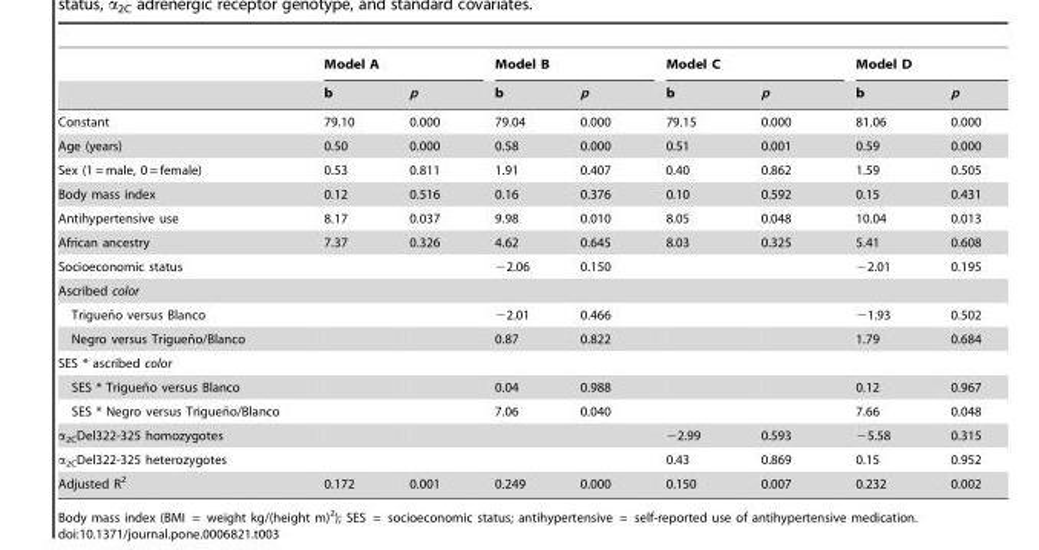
<table><thead><tr><td rowspan="2"></td><td colspan="2">Model A</td><td colspan="2">Model B</td><td colspan="2">Model C</td><td colspan="2">Model D</td></tr><tr><td>b</td><td>p</td><td>b</td><td>p</td><td>b</td><td>p</td><td>b</td><td>p</td></tr></thead><tbody><tr><td>Constant</td><td>79.10</td><td>0.000</td><td>79.04</td><td>0.000</td><td>79.15</td><td>0.000</td><td>81.06</td><td>0.000</td></tr><tr><td>Age (years)</td><td>0.50</td><td>0.000</td><td>0.58</td><td>0.000</td><td>0.51</td><td>0.001</td><td>0.59</td><td>0.000</td></tr><tr><td>Sex (1 = male, 0 = female)</td><td>0.53</td><td>0.811</td><td>1.91</td><td>0.407</td><td>0.40</td><td>0.862</td><td>1.59</td><td>0.505</td></tr><tr><td>Body mass index</td><td>0.12</td><td>0.516</td><td>0.16</td><td>0.376</td><td>0.10</td><td>0.592</td><td>0.15</td><td>0.431</td></tr><tr><td>Antihypertensive use</td><td>8.17</td><td>0.037</td><td>9.98</td><td>0.010</td><td>8.05</td><td>0.048</td><td>10.04</td><td>0.013</td></tr><tr><td>African ancestry</td><td>7.37</td><td>0.326</td><td>4.62</td><td>0.645</td><td>8.03</td><td>0.325</td><td>5.41</td><td>0.608</td></tr><tr><td>Socioeconomic status</td><td></td><td></td><td>−2.06</td><td>0.150</td><td></td><td></td><td>−2.01</td><td>0.195</td></tr><tr><td colspan="9">Ascribed color</td></tr><tr><td>Triguen˜o versus Blanco</td><td></td><td></td><td>−2.01</td><td>0.466</td><td></td><td></td><td>−1.93</td><td>0.502</td></tr><tr><td>Negro versus Triguen˜o/Blanco</td><td></td><td></td><td>0.87</td><td>0.822</td><td></td><td></td><td>1.79</td><td>0.684</td></tr><tr><td colspan="9">SES * ascribed color</td></tr><tr><td>SES * Triguen˜o versus Blanco</td><td></td><td></td><td>0.04</td><td>0.988</td><td></td><td></td><td>0.12</td><td>0.967</td></tr><tr><td>SES * Negro versus Triguen˜o/Blanco</td><td></td><td></td><td>7.06</td><td>0.040</td><td></td><td></td><td>7.66</td><td>0.048</td></tr><tr><td>α<sub>2C</sub>Del322-325 homozygotes</td><td></td><td></td><td></td><td></td><td>−2.99</td><td>0.593</td><td>−5.58</td><td>0.315</td></tr><tr><td>α<sub>2C</sub>Del322-325 heterozygotes</td><td></td><td></td><td></td><td></td><td>0.43</td><td>0.869</td><td>0.15</td><td>0.952</td></tr><tr><td>Adjusted R<sup>2</sup></td><td>0.172</td><td>0.001</td><td>0.249</td><td>0.000</td><td>0.150</td><td>0.007</td><td>0.232</td><td>0.002</td></tr></tbody></table>